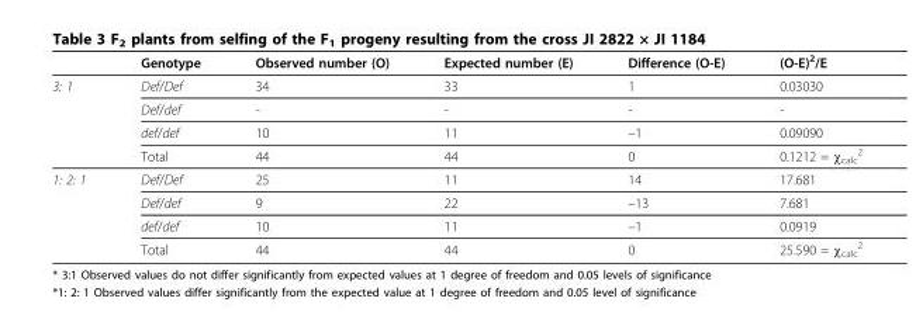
<table><thead><tr><td></td><td>Genotype</td><td>Observed number (O)</td><td>Expected number (E)</td><td>Difference (O-E)</td><td>(O-E)<sup>2</sup>/E</td></tr></thead><tbody><tr><td rowspan="4">3: 1</td><td>Def/Def</td><td>34</td><td>33</td><td>1</td><td>0.03030</td></tr><tr><td>Def/def</td><td>-</td><td>-</td><td>-</td><td>-</td></tr><tr><td>def/def</td><td>10</td><td>11</td><td>–1</td><td>0.09090</td></tr><tr><td>Total</td><td>44</td><td>44</td><td>0</td><td>0.1212 = χ<sub>calc</sub> <sup>2</sup></td></tr><tr><td rowspan="4">1: 2: 1</td><td>Def/Def</td><td>25</td><td>11</td><td>14</td><td>17.681</td></tr><tr><td>Def/def</td><td>9</td><td>22</td><td>–13</td><td>7.681</td></tr><tr><td>def/def</td><td>10</td><td>11</td><td>–1</td><td>0.0919</td></tr><tr><td>Total</td><td>44</td><td>44</td><td>0</td><td>25.590 = χ<sub>calc</sub> <sup>2</sup></td></tr></tbody></table>